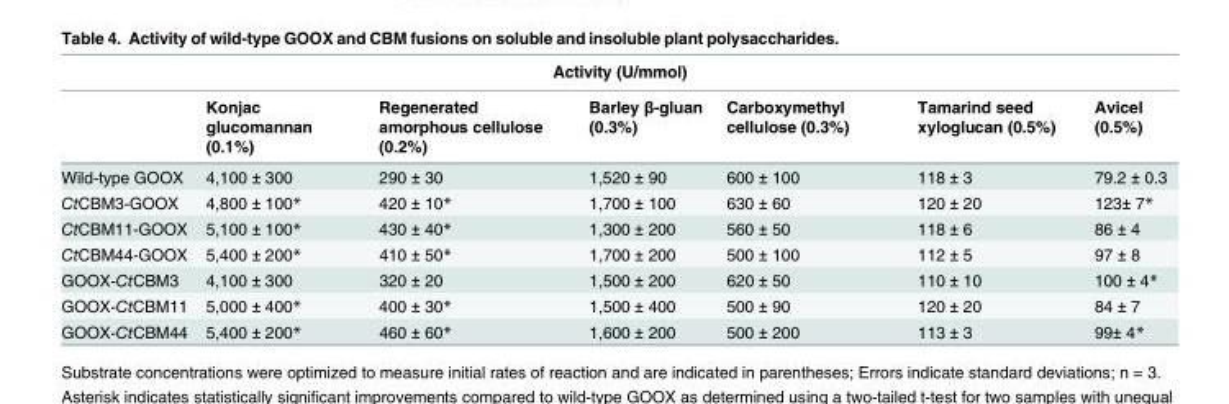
<table><thead><tr><td colspan="7">Activity (U/mmol)</td></tr><tr><td></td><td>Konjac glucomannan (0.1%)</td><td>Regenerated amorphous cellulose (0.2%)</td><td>Barley β-gluan (0.3%)</td><td>Carboxymethyl cellulose (0.3%)</td><td>Tamarind seed xyloglucan (0.5%)</td><td>Avicel (0.5%)</td></tr></thead><tbody><tr><td>Wild-type GOOX</td><td>4,100 ± 300</td><td>290 ± 30</td><td>1,520 ± 90</td><td>600 ± 100</td><td>118 ± 3</td><td>79.2 ± 0.3</td></tr><tr><td>CtCBM3-GOOX</td><td>4,800 ± 100*</td><td>420 ± 10*</td><td>1,700 ± 100</td><td>630 ± 60</td><td>120 ± 20</td><td>123± 7*</td></tr><tr><td>CtCBM11-GOOX</td><td>5,100 ± 100*</td><td>430 ± 40*</td><td>1,300 ± 200</td><td>560 ± 50</td><td>118 ± 6</td><td>86 ± 4</td></tr><tr><td>CtCBM44-GOOX</td><td>5,400 ± 200*</td><td>410 ± 50*</td><td>1,700 ± 200</td><td>500 ± 100</td><td>112 ± 5</td><td>97 ± 8</td></tr><tr><td>GOOX-CtCBM3</td><td>4,100 ± 300</td><td>320 ± 20</td><td>1,500 ± 200</td><td>620 ± 50</td><td>110 ± 10</td><td>100 ± 4*</td></tr><tr><td>GOOX-CtCBM11</td><td>5,000 ± 400*</td><td>400 ± 30*</td><td>1,500 ± 400</td><td>500 ± 90</td><td>120 ± 20</td><td>84 ± 7</td></tr><tr><td>GOOX-CtCBM44</td><td>5,400 ± 200*</td><td>460 ± 60*</td><td>1,600 ± 200</td><td>500 ± 200</td><td>113 ± 3</td><td>99± 4*</td></tr></tbody></table>